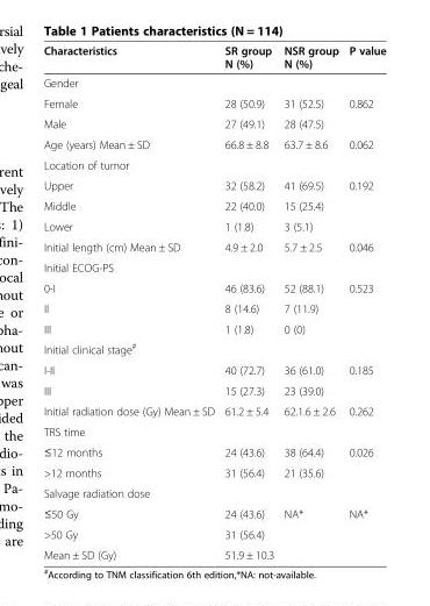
<table><thead><tr><td>Characteristics</td><td>SR group N (%)</td><td>NSR group N (%)</td><td>P value</td></tr></thead><tbody><tr><td colspan="4">Gender</td></tr><tr><td>Female</td><td>28 (50.9)</td><td>31 (52.5)</td><td rowspan="2">0.862</td></tr><tr><td>Male</td><td>27 (49.1)</td><td>28 (47.5)</td></tr><tr><td>Age (years) Mean ± SD</td><td>66.8 ± 8.8</td><td>63.7 ± 8.6</td><td>0.062</td></tr><tr><td colspan="4">Location of tumor</td></tr><tr><td>Upper</td><td>32 (58.2)</td><td>41 (69.5)</td><td rowspan="3">0.192</td></tr><tr><td>Middle</td><td>22 (40.0)</td><td>15 (25.4)</td></tr><tr><td>Lower</td><td>1 (1.8)</td><td>3 (5.1)</td></tr><tr><td>Initial length (cm) Mean ± SD</td><td>4.9 ± 2.0</td><td>5.7 ± 2.5</td><td>0.046</td></tr><tr><td colspan="4">Initial ECOG-PS</td></tr><tr><td>0-I</td><td>46 (83.6)</td><td>52 (88.1)</td><td rowspan="3">0.523</td></tr><tr><td>II</td><td>8 (14.6)</td><td>7 (11.9)</td></tr><tr><td>III</td><td>1 (1.8)</td><td>0 (0)</td></tr><tr><td colspan="4">Initial clinical stage<sup>#</sup></td></tr><tr><td>I-II</td><td>40 (72.7)</td><td>36 (61.0)</td><td rowspan="2">0.185</td></tr><tr><td>III</td><td>15 (27.3)</td><td>23 (39.0)</td></tr><tr><td>Initial radiation dose (Gy) Mean ± SD</td><td>61.2 ± 5.4</td><td>62.1.6 ± 2.6</td><td>0.262</td></tr><tr><td colspan="4">TRS time</td></tr><tr><td>≤12 months</td><td>24 (43.6)</td><td>38 (64.4)</td><td rowspan="2">0.026</td></tr><tr><td>&gt;12 months</td><td>31 (56.4)</td><td>21 (35.6)</td></tr><tr><td colspan="4">Salvage radiation dose</td></tr><tr><td>≤50 Gy</td><td>24 (43.6)</td><td rowspan="3">NA*</td><td rowspan="3">NA*</td></tr><tr><td>&gt;50 Gy</td><td>31 (56.4)</td></tr><tr><td>Mean ± SD (Gy)</td><td>51.9 ± 10.3</td></tr></tbody></table>